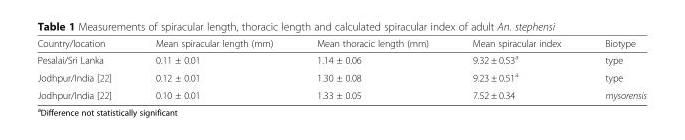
<table><thead><tr><td>Country/location</td><td>Mean spiracular length (mm)</td><td>Mean thoracic length (mm)</td><td>Mean spiracular index</td><td>Biotype</td></tr></thead><tbody><tr><td>Pesalai/Sri Lanka</td><td>0.11 ± 0.01</td><td>1.14 ± 0.06</td><td>9.32 ± 0.53<sup>a</sup></td><td>type</td></tr><tr><td>Jodhpur/India [22]</td><td>0.12 ± 0.01</td><td>1.30 ± 0.08</td><td>9.23 ± 0.51<sup>a</sup></td><td>type</td></tr><tr><td>Jodhpur/India [22]</td><td>0.10 ± 0.01</td><td>1.33 ± 0.05</td><td>7.52 ± 0.34</td><td>mysorensis</td></tr></tbody></table>